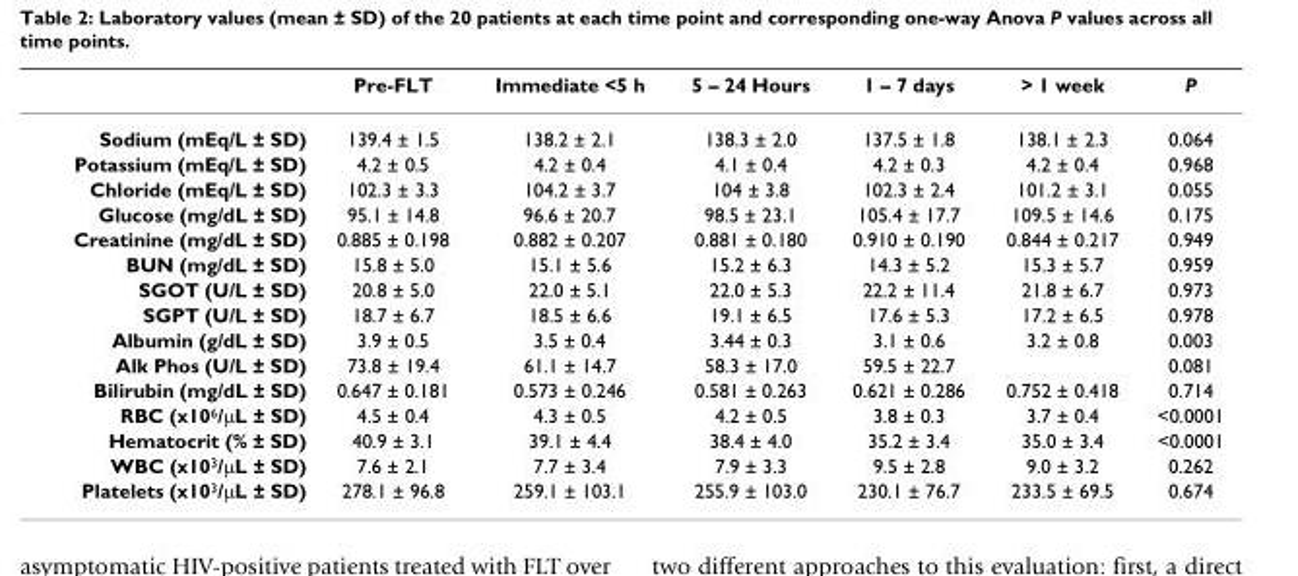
<table><thead><tr><td></td><td>Pre-FLT</td><td>Immediate &lt;5 h</td><td>5 – 24 Hours</td><td>1 – 7 days</td><td>&gt; 1 week</td><td>P</td></tr></thead><tbody><tr><td>Sodium (mEq/L ± SD)</td><td>139.4 ± 1.5</td><td>138.2 ± 2.1</td><td>138.3 ± 2.0</td><td>137.5 ± 1.8</td><td>138.1 ± 2.3</td><td>0.064</td></tr><tr><td>Potassium (mEq/L ± SD)</td><td>4.2 ± 0.5</td><td>4.2 ± 0.4</td><td>4.1 ± 0.4</td><td>4.2 ± 0.3</td><td>4.2 ± 0.4</td><td>0.968</td></tr><tr><td>Chloride (mEq/L ± SD)</td><td>102.3 ± 3.3</td><td>104.2 ± 3.7</td><td>104 ± 3.8</td><td>102.3 ± 2.4</td><td>101.2 ± 3.1</td><td>0.055</td></tr><tr><td>Glucose (mg/dL ± SD)</td><td>95.1 ± 14.8</td><td>96.6 ± 20.7</td><td>98.5 ± 23.1</td><td>105.4 ± 17.7</td><td>109.5 ± 14.6</td><td>0.175</td></tr><tr><td>Creatinine (mg/dL ± SD)</td><td>0.885 ± 0.198</td><td>0.882 ± 0.207</td><td>0.881 ± 0.180</td><td>0.910 ± 0.190</td><td>0.844 ± 0.217</td><td>0.949</td></tr><tr><td>BUN (mg/dL ± SD)</td><td>15.8 ± 5.0</td><td>15.1 ± 5.6</td><td>15.2 ± 6.3</td><td>14.3 ± 5.2</td><td>15.3 ± 5.7</td><td>0.959</td></tr><tr><td>SGOT (U/L ± SD)</td><td>20.8 ± 5.0</td><td>22.0 ± 5.1</td><td>22.0 ± 5.3</td><td>22.2 ± 11.4</td><td>21.8 ± 6.7</td><td>0.973</td></tr><tr><td>SGPT (U/L ± SD)</td><td>18.7 ± 6.7</td><td>18.5 ± 6.6</td><td>19.1 ± 6.5</td><td>17.6 ± 5.3</td><td>17.2 ± 6.5</td><td>0.978</td></tr><tr><td>Albumin (g/dL ± SD)</td><td>3.9 ± 0.5</td><td>3.5 ± 0.4</td><td>3.44 ± 0.3</td><td>3.1 ± 0.6</td><td>3.2 ± 0.8</td><td>0.003</td></tr><tr><td>Alk Phos (U/L ± SD)</td><td>73.8 ± 19.4</td><td>61.1 ± 14.7</td><td>58.3 ± 17.0</td><td>59.5 ± 22.7</td><td></td><td>0.081</td></tr><tr><td>Bilirubin (mg/dL ± SD)</td><td>0.647 ± 0.181</td><td>0.573 ± 0.246</td><td>0.581 ± 0.263</td><td>0.621 ± 0.286</td><td>0.752 ± 0.418</td><td>0.714</td></tr><tr><td>RBC (x10<sup>6</sup>/μL ± SD)</td><td>4.5 ± 0.4</td><td>4.3 ± 0.5</td><td>4.2 ± 0.5</td><td>3.8 ± 0.3</td><td>3.7 ± 0.4</td><td>&lt;0.0001</td></tr><tr><td>Hematocrit (% ± SD)</td><td>40.9 ± 3.1</td><td>39.1 ± 4.4</td><td>38.4 ± 4.0</td><td>35.2 ± 3.4</td><td>35.0 ± 3.4</td><td>&lt;0.0001</td></tr><tr><td>WBC (x10<sup>3</sup>/μL ± SD)</td><td>7.6 ± 2.1</td><td>7.7 ± 3.4</td><td>7.9 ± 3.3</td><td>9.5 ± 2.8</td><td>9.0 ± 3.2</td><td>0.262</td></tr><tr><td>Platelets (x10<sup>3</sup>/μL ± SD)</td><td>278.1 ± 96.8</td><td>259.1 ± 103.1</td><td>255.9 ± 103.0</td><td>230.1 ± 76.7</td><td>233.5 ± 69.5</td><td>0.674</td></tr></tbody></table>